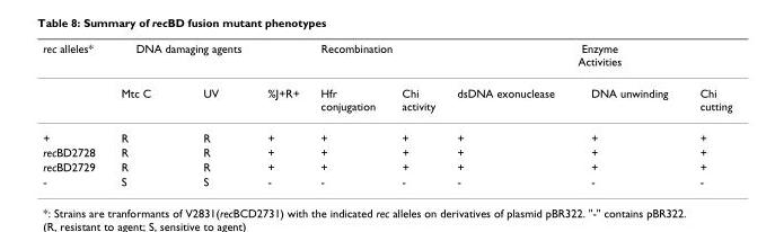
<table><thead><tr><td rowspan="2">rec alleles*</td><td colspan="2">DNA damaging agents</td><td colspan="3">Recombination</td><td colspan="3">Enzyme Activities</td></tr><tr><td>Mtc C</td><td>UV</td><td>%J+R+</td><td>Hfr conjugation</td><td>Chi activity</td><td>dsDNA exonuclease</td><td>DNA unwinding</td><td>Chi cutting</td></tr></thead><tbody><tr><td>+</td><td>R</td><td>R</td><td>+</td><td>+</td><td>+</td><td>+</td><td>+</td><td>+</td></tr><tr><td>recBD2728</td><td>R</td><td>R</td><td>+</td><td>+</td><td>+</td><td>+</td><td>+</td><td>+</td></tr><tr><td>recBD2729</td><td>R</td><td>R</td><td>+</td><td>+</td><td>+</td><td>+</td><td>+</td><td>+</td></tr><tr><td>-</td><td>S</td><td>S</td><td>-</td><td>-</td><td>-</td><td>-</td><td>-</td><td>-</td></tr></tbody></table>